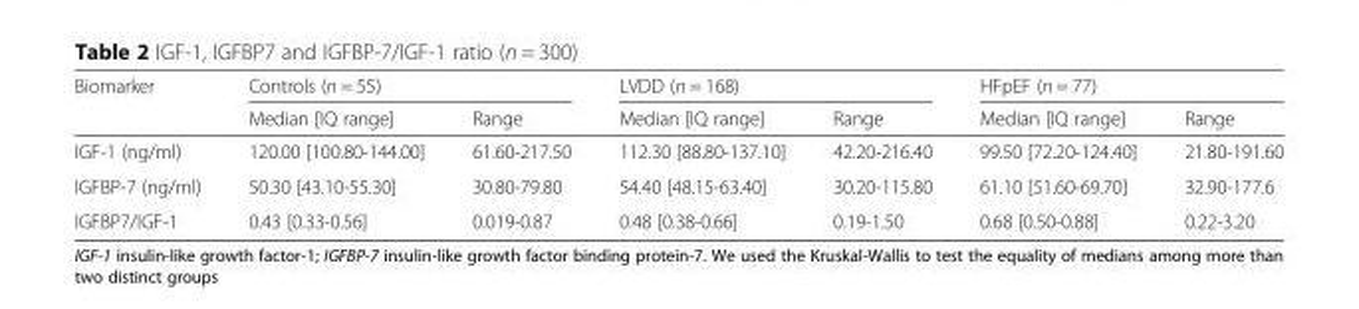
<table><thead><tr><td rowspan="2">Biomarker</td><td colspan="2">Controls (n = 55)</td><td colspan="2">LVDD (n = 168)</td><td colspan="2">HFpEF (n = 77)</td></tr><tr><td>Median [IQ range]</td><td>Range</td><td>Median [IQ range]</td><td>Range</td><td>Median [IQ range]</td><td>Range</td></tr></thead><tbody><tr><td>IGF-1 (ng/ml)</td><td>120.00 [100.80-144.00]</td><td>61.60-217.50</td><td>112.30 [88.80-137.10]</td><td>42.20-216.40</td><td>99.50 [72.20-124.40]</td><td>21.80-191.60</td></tr><tr><td>IGFBP-7 (ng/ml)</td><td>50.30 [43.10-55.30]</td><td>30.80-79.80</td><td>54.40 [48.15-63.40]</td><td>30.20-115.80</td><td>61.10 [51.60-69.70]</td><td>32.90-177.6</td></tr><tr><td>IGFBP7/IGF-1</td><td>0.43 [0.33-0.56]</td><td>0.019-0.87</td><td>0.48 [0.38-0.66]</td><td>0.19-1.50</td><td>0.68 [0.50-0.88]</td><td>0.22-3.20</td></tr></tbody></table>